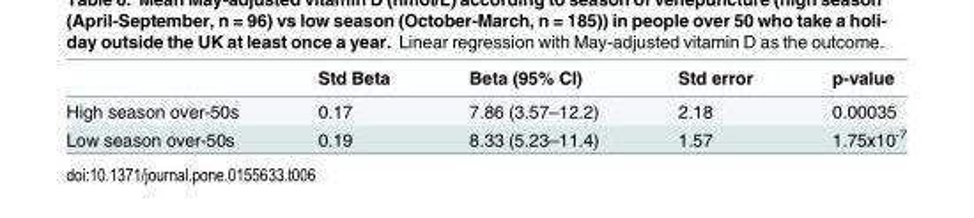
<table><thead><tr><td></td><td>Std Beta</td><td>Beta (95% CI)</td><td>Std error</td><td>p-value</td></tr></thead><tbody><tr><td>High season over-50s</td><td>0.17</td><td>7.86 (3.57–12.2)</td><td>2.18</td><td>0.00035</td></tr><tr><td>Low season over-50s</td><td>0.19</td><td>8.33 (5.23–11.4)</td><td>1.57</td><td>1.75x10<sup>-7</sup></td></tr></tbody></table>